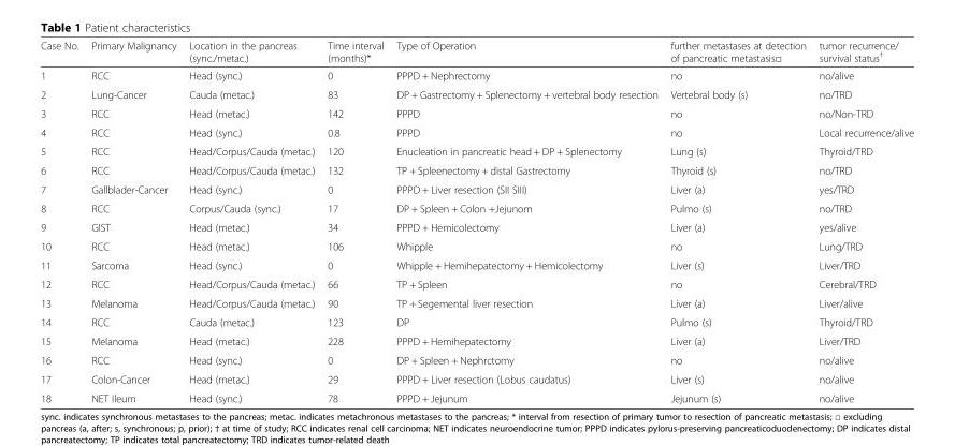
<table><thead><tr><td>Case No.</td><td>Primary Malignancy</td><td>Location in the pancreas (sync./metac.)</td><td>Time interval (months)*</td><td>Type of Operation</td><td>further metastases at detection of pancreatic metastasis□</td><td>tumor recurrence/ survival status<sup>†</sup></td></tr></thead><tbody><tr><td>1</td><td>RCC</td><td>Head (sync.)</td><td>0</td><td>PPPD + Nephrectomy</td><td>no</td><td>no/alive</td></tr><tr><td>2</td><td>Lung-Cancer</td><td>Cauda (metac.)</td><td>83</td><td>DP + Gastrectomy + Splenectomy + vertebral body resection</td><td>Vertebral body (s)</td><td>no/TRD</td></tr><tr><td>3</td><td>RCC</td><td>Head (metac.)</td><td>142</td><td>PPPD</td><td>no</td><td>no/Non-TRD</td></tr><tr><td>4</td><td>RCC</td><td>Head (sync.)</td><td>0.8</td><td>PPPD</td><td>no</td><td>Local recurrence/alive</td></tr><tr><td>5</td><td>RCC</td><td>Head/Corpus/Cauda (metac.)</td><td>120</td><td>Enucleation in pancreatic head + DP + Splenectomy</td><td>Lung (s)</td><td>Thyroid/TRD</td></tr><tr><td>6</td><td>RCC</td><td>Head/Corpus/Cauda (metac.)</td><td>132</td><td>TP + Spleenectomy + distal Gastrectomy</td><td>Thyroid (s)</td><td>no/TRD</td></tr><tr><td>7</td><td>Gallblader-Cancer</td><td>Head (sync.)</td><td>0</td><td>PPPD + Liver resection (SII SIII)</td><td>Liver (a)</td><td>yes/TRD</td></tr><tr><td>8</td><td>RCC</td><td>Corpus/Cauda (sync.)</td><td>17</td><td>DP + Spleen + Colon +Jejunom</td><td>Pulmo (s)</td><td>no/TRD</td></tr><tr><td>9</td><td>GIST</td><td>Head (metac.)</td><td>34</td><td>PPPD + Hemicolectomy</td><td>Liver (a)</td><td>yes/alive</td></tr><tr><td>10</td><td>RCC</td><td>Head (metac.)</td><td>106</td><td>Whipple</td><td>no</td><td>Lung/TRD</td></tr><tr><td>11</td><td>Sarcoma</td><td>Head (sync.)</td><td>0</td><td>Whipple + Hemihepatectomy + Hemicolectomy</td><td>Liver (s)</td><td>Liver/TRD</td></tr><tr><td>12</td><td>RCC</td><td>Head/Corpus/Cauda (metac.)</td><td>66</td><td>TP + Spleen</td><td>no</td><td>Cerebral/TRD</td></tr><tr><td>13</td><td>Melanoma</td><td>Head/Corpus/Cauda (metac.)</td><td>90</td><td>TP + Segemental liver resection</td><td>Liver (a)</td><td>Liver/alive</td></tr><tr><td>14</td><td>RCC</td><td>Cauda (metac.)</td><td>123</td><td>DP</td><td>Pulmo (s)</td><td>Thyroid/TRD</td></tr><tr><td>15</td><td>Melanoma</td><td>Head (metac.)</td><td>228</td><td>PPPD + Hemihepatectomy</td><td>Liver (a)</td><td>Liver/TRD</td></tr><tr><td>16</td><td>RCC</td><td>Head (sync.)</td><td>0</td><td>DP + Spleen + Nephrctomy</td><td>no</td><td>no/alive</td></tr><tr><td>17</td><td>Colon-Cancer</td><td>Head (metac.)</td><td>29</td><td>PPPD + Liver resection (Lobus caudatus)</td><td>Liver (s)</td><td>no/alive</td></tr><tr><td>18</td><td>NET Ileum</td><td>Head (sync.)</td><td>78</td><td>PPPD + Jejunum</td><td>Jejunum (s)</td><td>no/alive</td></tr></tbody></table>